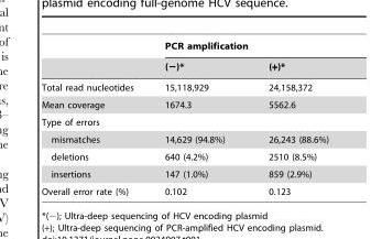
<table><thead><tr><td rowspan="2"></td><td colspan="2">PCR amplification</td></tr><tr><td>(−)*</td><td>(+)*</td></tr></thead><tbody><tr><td>Total read nucleotides</td><td>15,118,929</td><td>24,158,372</td></tr><tr><td>Mean coverage</td><td>1674.3</td><td>5562.6</td></tr><tr><td colspan="3">Type of errors</td></tr><tr><td>mismatches</td><td>14,629 (94.8%)</td><td>26,243 (88.6%)</td></tr><tr><td>deletions</td><td>640 (4.2%)</td><td>2510 (8.5%)</td></tr><tr><td>insertions</td><td>147 (1.0%)</td><td>859 (2.9%)</td></tr><tr><td>Overall error rate (%)</td><td>0.102</td><td>0.123</td></tr></tbody></table>